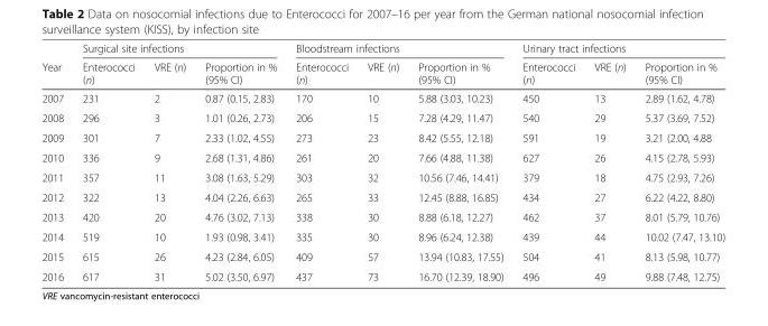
<table><thead><tr><td rowspan="2">Year</td><td colspan="3">Surgical site infections</td><td colspan="3">Bloodstream infections</td><td colspan="3">Urinary tract infections</td></tr><tr><td>Enterococci (n)</td><td>VRE (n)</td><td>Proportion in % (95% CI)</td><td>Enterococci (n)</td><td>VRE (n)</td><td>Proportion in % (95% CI)</td><td>Enterococci (n)</td><td>VRE (n)</td><td>Proportion in % (95% CI)</td></tr></thead><tbody><tr><td>2007</td><td>231</td><td>2</td><td>0.87 (0.15, 2.83)</td><td>170</td><td>10</td><td>5.88 (3.03, 10.23)</td><td>450</td><td>13</td><td>2.89 (1.62, 4.78)</td></tr><tr><td>2008</td><td>296</td><td>3</td><td>1.01 (0.26, 2.73)</td><td>206</td><td>15</td><td>7.28 (4.29, 11.47)</td><td>540</td><td>29</td><td>5.37 (3.69, 7.52)</td></tr><tr><td>2009</td><td>301</td><td>7</td><td>2.33 (1.02, 4.55)</td><td>273</td><td>23</td><td>8.42 (5.55, 12.18)</td><td>591</td><td>19</td><td>3.21 (2.00, 4.88</td></tr><tr><td>2010</td><td>336</td><td>9</td><td>2.68 (1.31, 4.86)</td><td>261</td><td>20</td><td>7.66 (4.88, 11.38)</td><td>627</td><td>26</td><td>4.15 (2.78, 5.93)</td></tr><tr><td>2011</td><td>357</td><td>11</td><td>3.08 (1.63, 5.29)</td><td>303</td><td>32</td><td>10.56 (7.46, 14.41)</td><td>379</td><td>18</td><td>4.75 (2.93, 7.26)</td></tr><tr><td>2012</td><td>322</td><td>13</td><td>4.04 (2.26, 6.63)</td><td>265</td><td>33</td><td>12.45 (8.88, 16.85)</td><td>434</td><td>27</td><td>6.22 (4.22, 8.80)</td></tr><tr><td>2013</td><td>420</td><td>20</td><td>4.76 (3.02, 7.13)</td><td>338</td><td>30</td><td>8.88 (6.18, 12.27)</td><td>462</td><td>37</td><td>8.01 (5.79, 10.76)</td></tr><tr><td>2014</td><td>519</td><td>10</td><td>1.93 (0.98, 3.41)</td><td>335</td><td>30</td><td>8.96 (6.24, 12.38)</td><td>439</td><td>44</td><td>10.02 (7.47, 13.10)</td></tr><tr><td>2015</td><td>615</td><td>26</td><td>4.23 (2.84, 6.05)</td><td>409</td><td>57</td><td>13.94 (10.83, 17.55)</td><td>504</td><td>41</td><td>8.13 (5.98, 10.77)</td></tr><tr><td>2016</td><td>617</td><td>31</td><td>5.02 (3.50, 6.97)</td><td>437</td><td>73</td><td>16.70 (12.39, 18.90)</td><td>496</td><td>49</td><td>9.88 (7.48, 12.75)</td></tr></tbody></table>